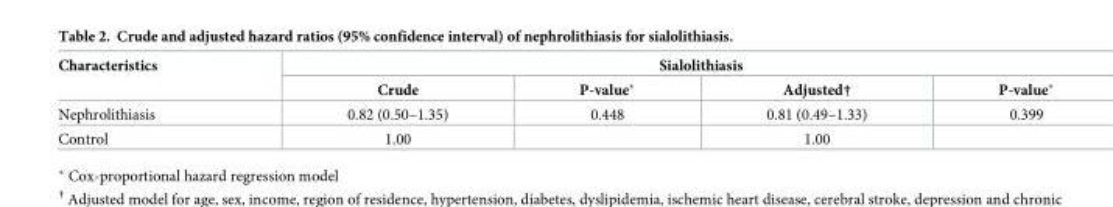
<table><thead><tr><td rowspan="2">Characteristics</td><td colspan="4">Sialolithiasis</td></tr><tr><td>Crude</td><td>P-value*</td><td>Adjusted†</td><td>P-value*</td></tr></thead><tbody><tr><td>Nephrolithiasis</td><td>0.82 (0.50–1.35)</td><td>0.448</td><td>0.81 (0.49–1.33)</td><td>0.399</td></tr><tr><td>Control</td><td>1.00</td><td></td><td>1.00</td><td></td></tr></tbody></table>